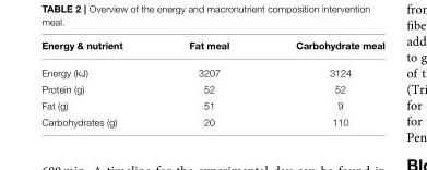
<table><thead><tr><td>Energy &amp; nutrient</td><td>Fat meal</td><td>Carbohydrate meal</td></tr></thead><tbody><tr><td>Energy (kJ)</td><td>3207</td><td>3124</td></tr><tr><td>Protein (g)</td><td>52</td><td>52</td></tr><tr><td>Fat (g)</td><td>51</td><td>9</td></tr><tr><td>Carbohydrates (g)</td><td>20</td><td>110</td></tr></tbody></table>